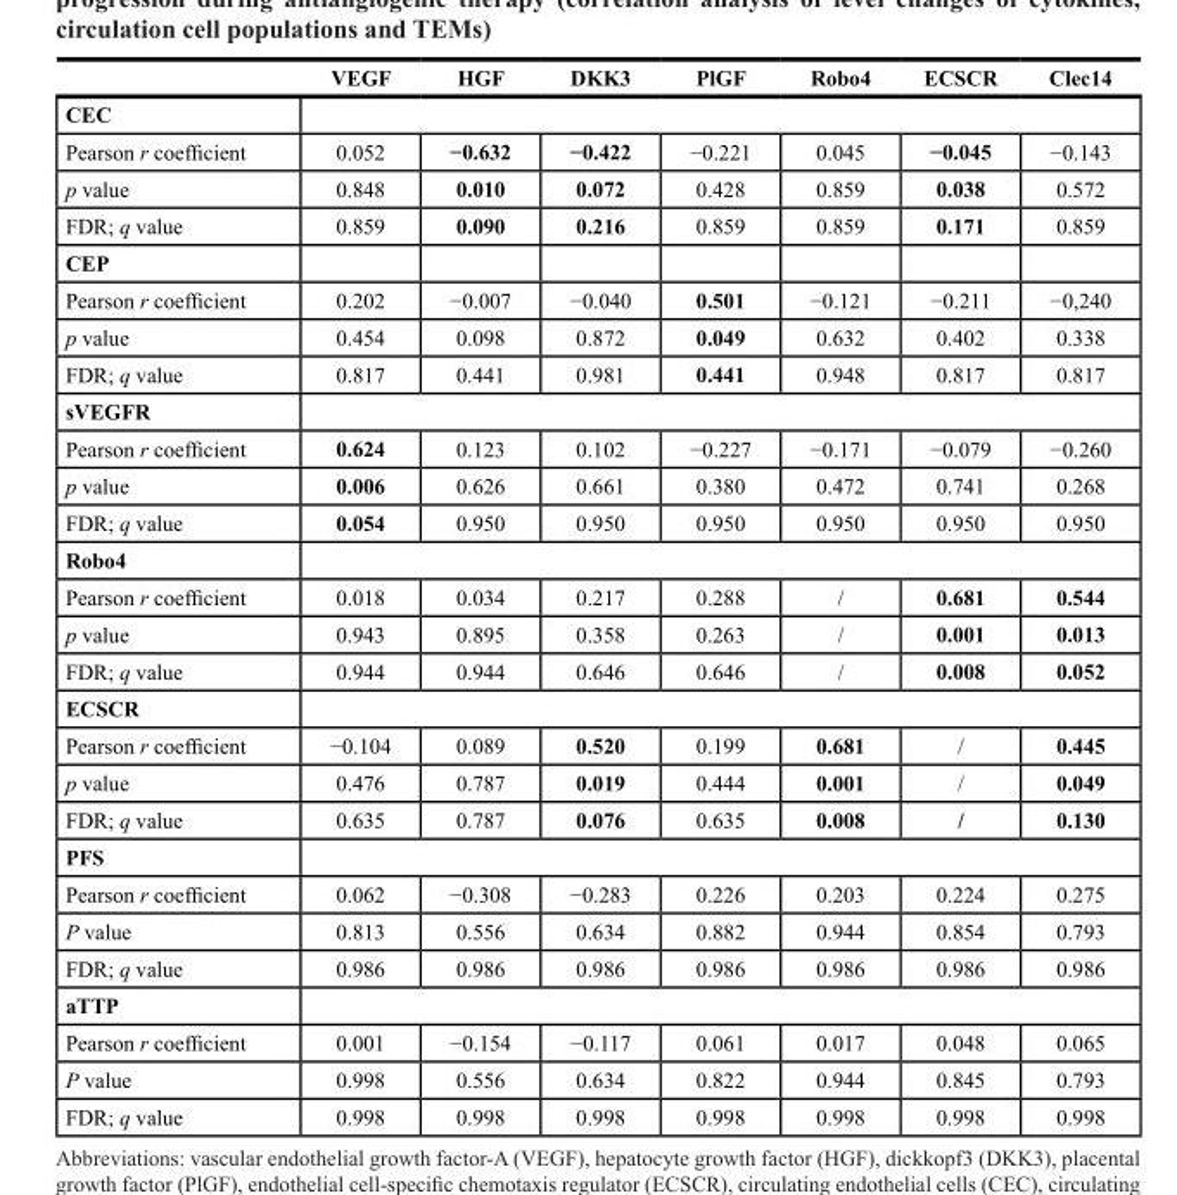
<table><thead><tr><td></td><td>VEGF</td><td>HGF</td><td>DKK3</td><td>PlGF</td><td>Robo4</td><td>ECSCR</td><td>Clec14</td></tr></thead><tbody><tr><td colspan="8">CEC</td></tr><tr><td>Pearson r coefficient</td><td>0.052</td><td>−0.632</td><td>−0.422</td><td>−0.221</td><td>0.045</td><td>−0.045</td><td>−0.143</td></tr><tr><td>p value</td><td>0.848</td><td>0.010</td><td>0.072</td><td>0.428</td><td>0.859</td><td>0.038</td><td>0.572</td></tr><tr><td>FDR; q value</td><td>0.859</td><td>0.090</td><td>0.216</td><td>0.859</td><td>0.859</td><td>0.171</td><td>0.859</td></tr><tr><td colspan="8">CEP</td></tr><tr><td>Pearson r coefficient</td><td>0.202</td><td>−0.007</td><td>−0.040</td><td>0.501</td><td>−0.121</td><td>−0.211</td><td>−0,240</td></tr><tr><td>p value</td><td>0.454</td><td>0.098</td><td>0.872</td><td>0.049</td><td>0.632</td><td>0.402</td><td>0.338</td></tr><tr><td>FDR; q value</td><td>0.817</td><td>0.441</td><td>0.981</td><td>0.441</td><td>0.948</td><td>0.817</td><td>0.817</td></tr><tr><td colspan="8">sVEGFR</td></tr><tr><td>Pearson r coefficient</td><td>0.624</td><td>0.123</td><td>0.102</td><td>−0.227</td><td>−0.171</td><td>−0.079</td><td>−0.260</td></tr><tr><td>p value</td><td>0.006</td><td>0.626</td><td>0.661</td><td>0.380</td><td>0.472</td><td>0.741</td><td>0.268</td></tr><tr><td>FDR; q value</td><td>0.054</td><td>0.950</td><td>0.950</td><td>0.950</td><td>0.950</td><td>0.950</td><td>0.950</td></tr><tr><td colspan="8">Robo4</td></tr><tr><td>Pearson r coefficient</td><td>0.018</td><td>0.034</td><td>0.217</td><td>0.288</td><td>/</td><td>0.681</td><td>0.544</td></tr><tr><td>p value</td><td>0.943</td><td>0.895</td><td>0.358</td><td>0.263</td><td>/</td><td>0.001</td><td>0.013</td></tr><tr><td>FDR; q value</td><td>0.944</td><td>0.944</td><td>0.646</td><td>0.646</td><td>/</td><td>0.008</td><td>0.052</td></tr><tr><td colspan="8">ECSCR</td></tr><tr><td>Pearson r coefficient</td><td>−0.104</td><td>0.089</td><td>0.520</td><td>0.199</td><td>0.681</td><td>/</td><td>0.445</td></tr><tr><td>p value</td><td>0.476</td><td>0.787</td><td>0.019</td><td>0.444</td><td>0.001</td><td>/</td><td>0.049</td></tr><tr><td>FDR; q value</td><td>0.635</td><td>0.787</td><td>0.076</td><td>0.635</td><td>0.008</td><td>/</td><td>0.130</td></tr><tr><td colspan="8">PFS</td></tr><tr><td>Pearson r coefficient</td><td>0.062</td><td>−0.308</td><td>−0.283</td><td>0.226</td><td>0.203</td><td>0.224</td><td>0.275</td></tr><tr><td>P value</td><td>0.813</td><td>0.556</td><td>0.634</td><td>0.882</td><td>0.944</td><td>0.854</td><td>0.793</td></tr><tr><td>FDR; q value</td><td>0.986</td><td>0.986</td><td>0.986</td><td>0.986</td><td>0.986</td><td>0.986</td><td>0.986</td></tr><tr><td colspan="8">aTTP</td></tr><tr><td>Pearson r coefficient</td><td>0.001</td><td>−0.154</td><td>−0.117</td><td>0.061</td><td>0.017</td><td>0.048</td><td>0.065</td></tr><tr><td>P value</td><td>0.998</td><td>0.556</td><td>0.634</td><td>0.822</td><td>0.944</td><td>0.845</td><td>0.793</td></tr><tr><td>FDR; q value</td><td>0.998</td><td>0.998</td><td>0.998</td><td>0.998</td><td>0.998</td><td>0.998</td><td>0.998</td></tr></tbody></table>